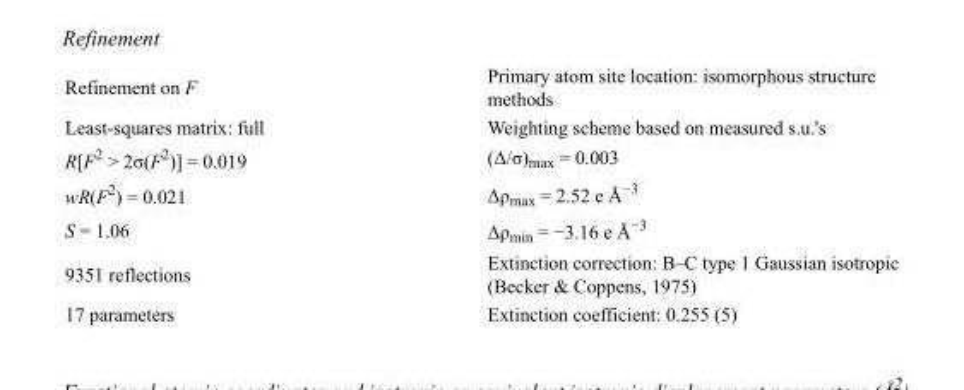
<table><tbody><tr><td>Refinement on F</td><td>Primary atom site location: isomorphous structure methods</td></tr><tr><td>Least-squares matrix: full</td><td>Weighting scheme based on measured s.u.&#x27;s</td></tr><tr><td>R[F<sup>2</sup> &gt; 2σ(F<sup>2</sup>)] = 0.019</td><td>(Δ/σ)<sub>max</sub> = 0.003</td></tr><tr><td>wR(F<sup>2</sup>) = 0.021</td><td>Δρ<sub>max</sub> = 2.52 e Å<sup>−3</sup></td></tr><tr><td>S = 1.06</td><td>Δρ<sub>min</sub> = −3.16 e Å<sup>−3</sup></td></tr><tr><td>9351 reflections</td><td>Extinction correction: B–C type 1 Gaussian isotropic (Becker &amp; Coppens, 1975)</td></tr><tr><td>17 parameters</td><td>Extinction coefficient: 0.255 (5)</td></tr></tbody></table>